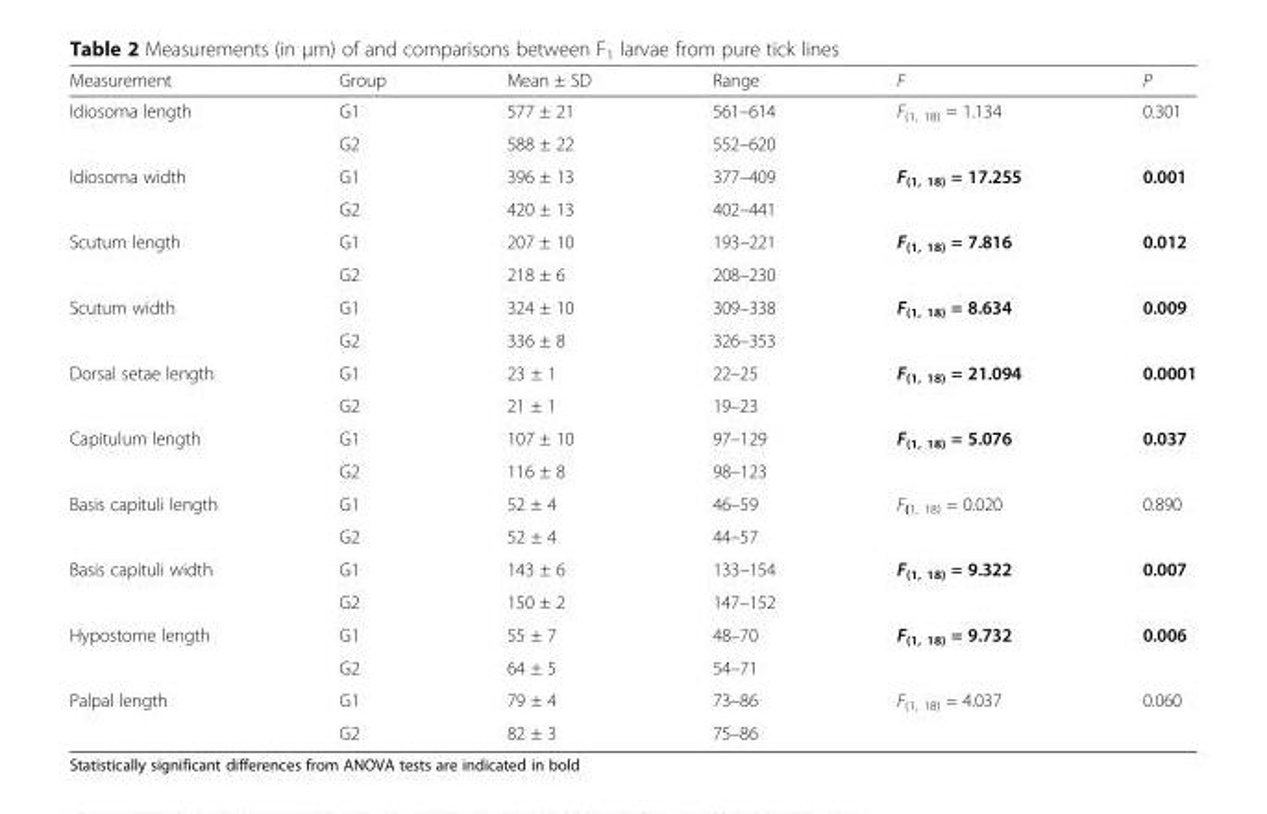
<table><thead><tr><td>Measurement</td><td>Group</td><td>Mean ± SD</td><td>Range</td><td>F</td><td>P</td></tr></thead><tbody><tr><td rowspan="2">Idiosoma length</td><td>G1</td><td>577 ± 21</td><td>561–614</td><td rowspan="2">F<sub>(1, 18)</sub> = 1.134</td><td rowspan="2">0.301</td></tr><tr><td>G2</td><td>588 ± 22</td><td>552–620</td></tr><tr><td rowspan="2">Idiosoma width</td><td>G1</td><td>396 ± 13</td><td>377–409</td><td rowspan="2">F<sub>(1, 18)</sub> = 17.255</td><td rowspan="2">0.001</td></tr><tr><td>G2</td><td>420 ± 13</td><td>402–441</td></tr><tr><td rowspan="2">Scutum length</td><td>G1</td><td>207 ± 10</td><td>193–221</td><td rowspan="2">F<sub>(1, 18)</sub> = 7.816</td><td rowspan="2">0.012</td></tr><tr><td>G2</td><td>218 ± 6</td><td>208–230</td></tr><tr><td rowspan="2">Scutum width</td><td>G1</td><td>324 ± 10</td><td>309–338</td><td rowspan="2">F<sub>(1, 18)</sub> = 8.634</td><td rowspan="2">0.009</td></tr><tr><td>G2</td><td>336 ± 8</td><td>326–353</td></tr><tr><td rowspan="2">Dorsal setae length</td><td>G1</td><td>23 ± 1</td><td>22–25</td><td rowspan="2">F<sub>(1, 18)</sub> = 21.094</td><td rowspan="2">0.0001</td></tr><tr><td>G2</td><td>21 ± 1</td><td>19–23</td></tr><tr><td rowspan="2">Capitulum length</td><td>G1</td><td>107 ± 10</td><td>97–129</td><td rowspan="2">F<sub>(1, 18)</sub> = 5.076</td><td rowspan="2">0.037</td></tr><tr><td>G2</td><td>116 ± 8</td><td>98–123</td></tr><tr><td rowspan="2">Basis capituli length</td><td>G1</td><td>52 ± 4</td><td>46–59</td><td rowspan="2">F<sub>(1, 18)</sub> = 0.020</td><td rowspan="2">0.890</td></tr><tr><td>G2</td><td>52 ± 4</td><td>44–57</td></tr><tr><td rowspan="2">Basis capituli width</td><td>G1</td><td>143 ± 6</td><td>133–154</td><td rowspan="2">F<sub>(1, 18)</sub> = 9.322</td><td rowspan="2">0.007</td></tr><tr><td>G2</td><td>150 ± 2</td><td>147–152</td></tr><tr><td rowspan="2">Hypostome length</td><td>G1</td><td>55 ± 7</td><td>48–70</td><td rowspan="2">F<sub>(1, 18)</sub> = 9.732</td><td rowspan="2">0.006</td></tr><tr><td>G2</td><td>64 ± 5</td><td>54–71</td></tr><tr><td rowspan="2">Palpal length</td><td>G1</td><td>79 ± 4</td><td>73–86</td><td rowspan="2">F<sub>(1, 18)</sub> = 4.037</td><td rowspan="2">0.060</td></tr><tr><td>G2</td><td>82 ± 3</td><td>75–86</td></tr></tbody></table>